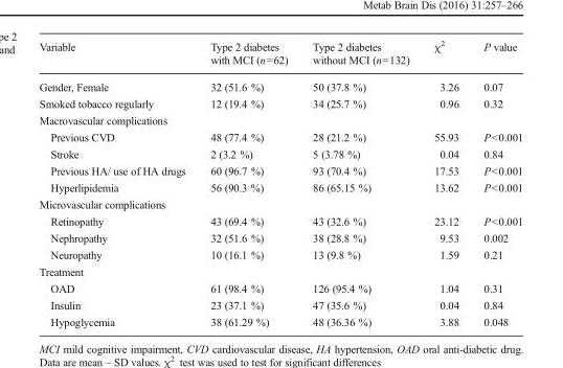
<table><thead><tr><td>Variable</td><td>Type 2 diabetes with MCI (n=62)</td><td>Type 2 diabetes without MCI (n=132)</td><td>χ<sup>2</sup></td><td>P value</td></tr></thead><tbody><tr><td>Gender, Female</td><td>32 (51.6 %)</td><td>50 (37.8 %)</td><td>3.26</td><td>0.07</td></tr><tr><td>Smoked tobacco regularly</td><td>12 (19.4 %)</td><td>34 (25.7 %)</td><td>0.96</td><td>0.32</td></tr><tr><td colspan="5">Macrovascular complications</td></tr><tr><td>Previous CVD</td><td>48 (77.4 %)</td><td>28 (21.2 %)</td><td>55.93</td><td>P&lt;0.001</td></tr><tr><td>Stroke</td><td>2 (3.2 %)</td><td>5 (3.78 %)</td><td>0.04</td><td>0.84</td></tr><tr><td>Previous HA/ use of HA drugs</td><td>60 (96.7 %)</td><td>93 (70.4 %)</td><td>17.53</td><td>P&lt;0.001</td></tr><tr><td>Hyperlipidemia</td><td>56 (90.3 %)</td><td>86 (65.15 %)</td><td>13.62</td><td>P&lt;0.001</td></tr><tr><td colspan="5">Microvascular complications</td></tr><tr><td>Retinopathy</td><td>43 (69.4 %)</td><td>43 (32.6 %)</td><td>23.12</td><td>P&lt;0.001</td></tr><tr><td>Nephropathy</td><td>32 (51.6 %)</td><td>38 (28.8 %)</td><td>9.53</td><td>0.002</td></tr><tr><td>Neuropathy</td><td>10 (16.1 %)</td><td>13 (9.8 %)</td><td>1.59</td><td>0.21</td></tr><tr><td colspan="5">Treatment</td></tr><tr><td>OAD</td><td>61 (98.4 %)</td><td>126 (95.4 %)</td><td>1.04</td><td>0.31</td></tr><tr><td>Insulin</td><td>23 (37.1 %)</td><td>47 (35.6 %)</td><td>0.04</td><td>0.84</td></tr><tr><td>Hypoglycemia</td><td>38 (61.29 %)</td><td>48 (36.36 %)</td><td>3.88</td><td>0.048</td></tr></tbody></table>